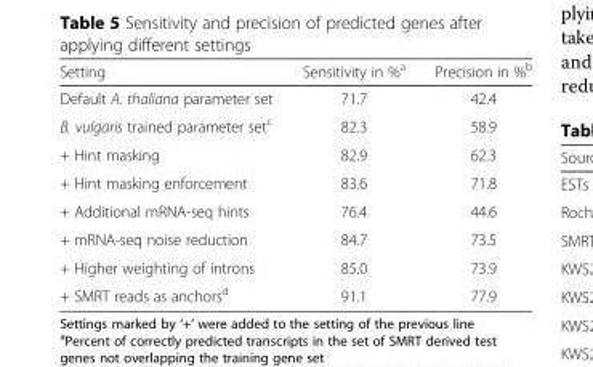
<table><thead><tr><td>Setting</td><td>Sensitivity in %<sup>a</sup></td><td>Precision in %<sup>b</sup></td></tr></thead><tbody><tr><td>Default A. thaliana parameter set</td><td>71.7</td><td>42.4</td></tr><tr><td>B. vulgaris trained parameter set<sup>c</sup></td><td>82.3</td><td>58.9</td></tr><tr><td>+ Hint masking</td><td>82.9</td><td>62.3</td></tr><tr><td>+ Hint masking enforcement</td><td>83.6</td><td>71.8</td></tr><tr><td>+ Additional mRNA-seq hints</td><td>76.4</td><td>44.6</td></tr><tr><td>+ mRNA-seq noise reduction</td><td>84.7</td><td>73.5</td></tr><tr><td>+ Higher weighting of introns</td><td>85.0</td><td>73.9</td></tr><tr><td>+ SMRT reads as anchors<sup>d</sup></td><td>91.1</td><td>77.9</td></tr></tbody></table>